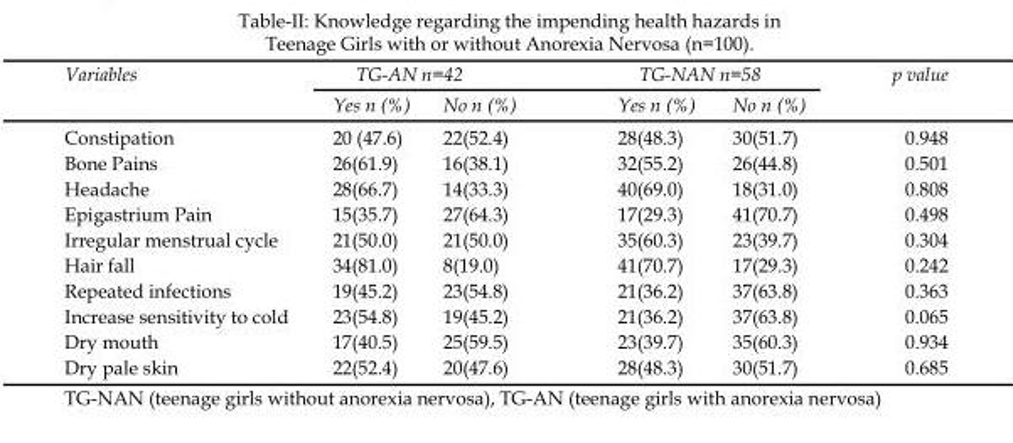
<table><thead><tr><td rowspan="2">Variables</td><td colspan="2">TG-AN n=42</td><td colspan="2">TG-NAN n=58</td><td rowspan="2">p value</td></tr><tr><td>Yes n (%)</td><td>No n (%)</td><td>Yes n (%)</td><td>No n (%)</td></tr></thead><tbody><tr><td>Constipation</td><td>20 (47.6)</td><td>22(52.4)</td><td>28(48.3)</td><td>30(51.7)</td><td>0.948</td></tr><tr><td>Bone Pains</td><td>26(61.9)</td><td>16(38.1)</td><td>32(55.2)</td><td>26(44.8)</td><td>0.501</td></tr><tr><td>Headache</td><td>28(66.7)</td><td>14(33.3)</td><td>40(69.0)</td><td>18(31.0)</td><td>0.808</td></tr><tr><td>Epigastrium Pain</td><td>15(35.7)</td><td>27(64.3)</td><td>17(29.3)</td><td>41(70.7)</td><td>0.498</td></tr><tr><td>Irregular menstrual cycle</td><td>21(50.0)</td><td>21(50.0)</td><td>35(60.3)</td><td>23(39.7)</td><td>0.304</td></tr><tr><td>Hair fall</td><td>34(81.0)</td><td>8(19.0)</td><td>41(70.7)</td><td>17(29.3)</td><td>0.242</td></tr><tr><td>Repeated infections</td><td>19(45.2)</td><td>23(54.8)</td><td>21(36.2)</td><td>37(63.8)</td><td>0.363</td></tr><tr><td>Increase sensitivity to cold</td><td>23(54.8)</td><td>19(45.2)</td><td>21(36.2)</td><td>37(63.8)</td><td>0.065</td></tr><tr><td>Dry mouth</td><td>17(40.5)</td><td>25(59.5)</td><td>23(39.7)</td><td>35(60.3)</td><td>0.934</td></tr><tr><td>Dry pale skin</td><td>22(52.4)</td><td>20(47.6)</td><td>28(48.3)</td><td>30(51.7)</td><td>0.685</td></tr></tbody></table>